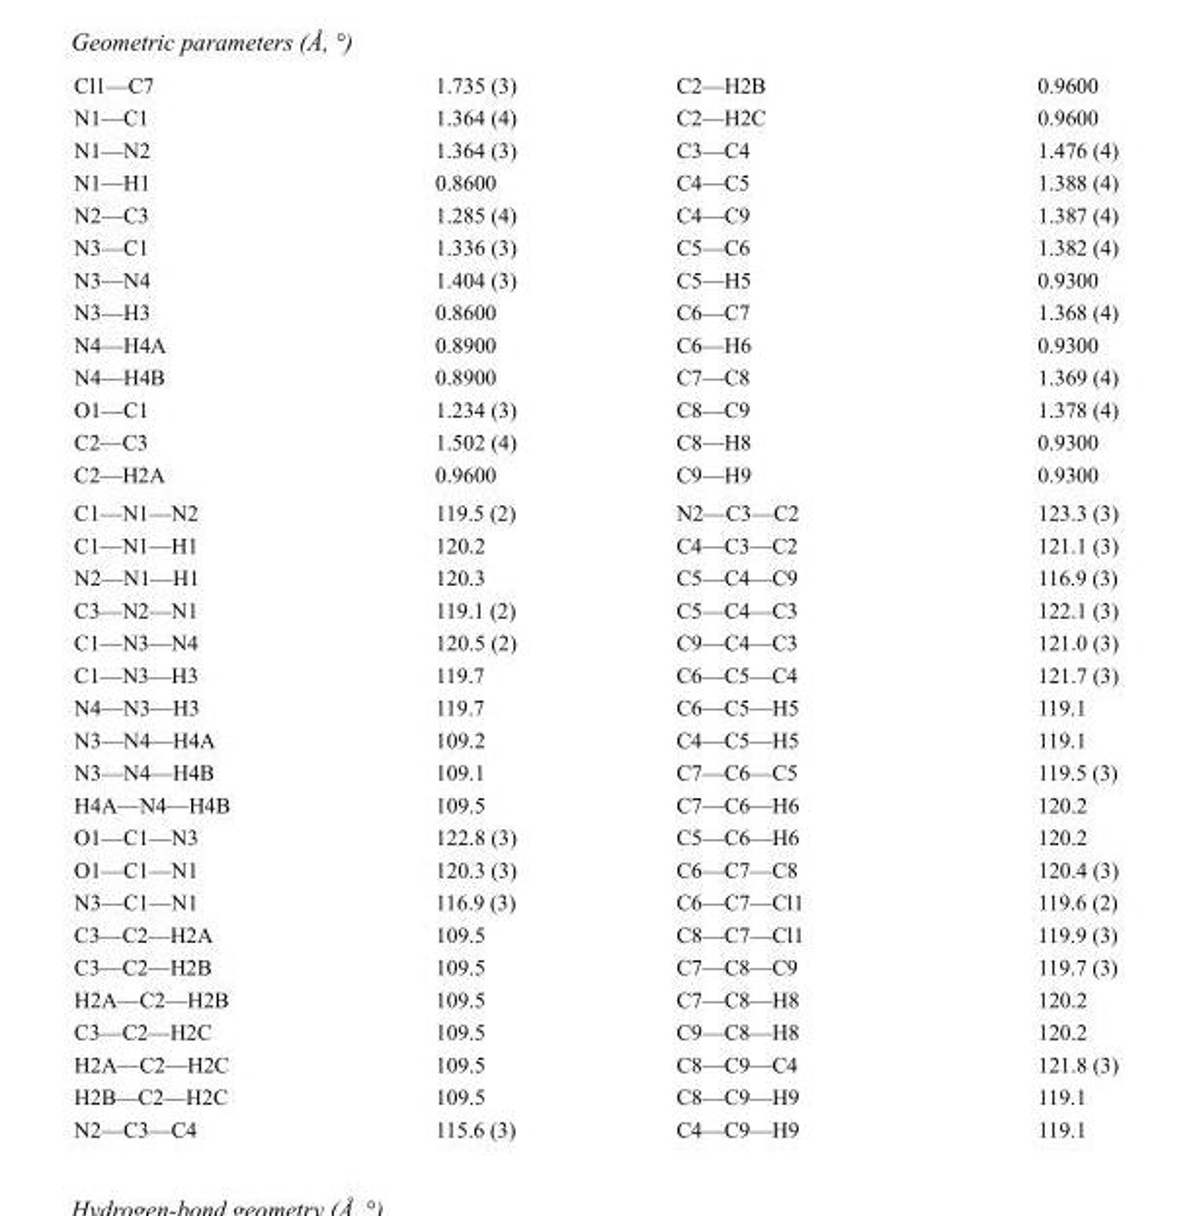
<table><tbody><tr><td>Cl1—C7</td><td>1.735 (3)</td><td>C2—H2B</td><td>0.9600</td></tr><tr><td>N1—C1</td><td>1.364 (4)</td><td>C2—H2C</td><td>0.9600</td></tr><tr><td>N1—N2</td><td>1.364 (3)</td><td>C3—C4</td><td>1.476 (4)</td></tr><tr><td>N1—H1</td><td>0.8600</td><td>C4—C5</td><td>1.388 (4)</td></tr><tr><td>N2—C3</td><td>1.285 (4)</td><td>C4—C9</td><td>1.387 (4)</td></tr><tr><td>N3—C1</td><td>1.336 (3)</td><td>C5—C6</td><td>1.382 (4)</td></tr><tr><td>N3—N4</td><td>1.404 (3)</td><td>C5—H5</td><td>0.9300</td></tr><tr><td>N3—H3</td><td>0.8600</td><td>C6—C7</td><td>1.368 (4)</td></tr><tr><td>N4—H4A</td><td>0.8900</td><td>C6—H6</td><td>0.9300</td></tr><tr><td>N4—H4B</td><td>0.8900</td><td>C7—C8</td><td>1.369 (4)</td></tr><tr><td>O1—C1</td><td>1.234 (3)</td><td>C8—C9</td><td>1.378 (4)</td></tr><tr><td>C2—C3</td><td>1.502 (4)</td><td>C8—H8</td><td>0.9300</td></tr><tr><td>C2—H2A</td><td>0.9600</td><td>C9—H9</td><td>0.9300</td></tr><tr><td>C1—N1—N2</td><td>119.5 (2)</td><td>N2—C3—C2</td><td>123.3 (3)</td></tr><tr><td>C1—N1—H1</td><td>120.2</td><td>C4—C3—C2</td><td>121.1 (3)</td></tr><tr><td>N2—N1—H1</td><td>120.3</td><td>C5—C4—C9</td><td>116.9 (3)</td></tr><tr><td>C3—N2—N1</td><td>119.1 (2)</td><td>C5—C4—C3</td><td>122.1 (3)</td></tr><tr><td>C1—N3—N4</td><td>120.5 (2)</td><td>C9—C4—C3</td><td>121.0 (3)</td></tr><tr><td>C1—N3—H3</td><td>119.7</td><td>C6—C5—C4</td><td>121.7 (3)</td></tr><tr><td>N4—N3—H3</td><td>119.7</td><td>C6—C5—H5</td><td>119.1</td></tr><tr><td>N3—N4—H4A</td><td>109.2</td><td>C4—C5—H5</td><td>119.1</td></tr><tr><td>N3—N4—H4B</td><td>109.1</td><td>C7—C6—C5</td><td>119.5 (3)</td></tr><tr><td>H4A—N4—H4B</td><td>109.5</td><td>C7—C6—H6</td><td>120.2</td></tr><tr><td>O1—C1—N3</td><td>122.8 (3)</td><td>C5—C6—H6</td><td>120.2</td></tr><tr><td>O1—C1—N1</td><td>120.3 (3)</td><td>C6—C7—C8</td><td>120.4 (3)</td></tr><tr><td>N3—C1—N1</td><td>116.9 (3)</td><td>C6—C7—Cl1</td><td>119.6 (2)</td></tr><tr><td>C3—C2—H2A</td><td>109.5</td><td>C8—C7—Cl1</td><td>119.9 (3)</td></tr><tr><td>C3—C2—H2B</td><td>109.5</td><td>C7—C8—C9</td><td>119.7 (3)</td></tr><tr><td>H2A—C2—H2B</td><td>109.5</td><td>C7—C8—H8</td><td>120.2</td></tr><tr><td>C3—C2—H2C</td><td>109.5</td><td>C9—C8—H8</td><td>120.2</td></tr><tr><td>H2A—C2—H2C</td><td>109.5</td><td>C8—C9—C4</td><td>121.8 (3)</td></tr><tr><td>H2B—C2—H2C</td><td>109.5</td><td>C8—C9—H9</td><td>119.1</td></tr><tr><td>N2—C3—C4</td><td>115.6 (3)</td><td>C4—C9—H9</td><td>119.1</td></tr></tbody></table>